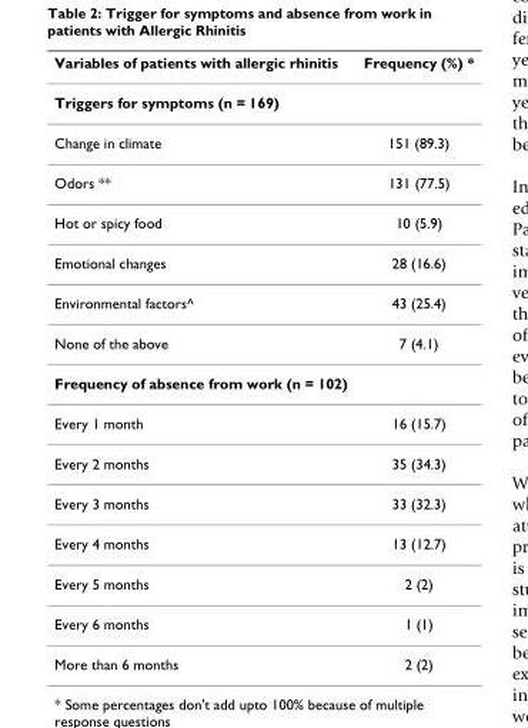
<table><thead><tr><td>Variables of patients with allergic rhinitis</td><td>Frequency (%) *</td></tr></thead><tbody><tr><td colspan="2">Triggers for symptoms (n = 169)</td></tr><tr><td>Change in climate</td><td>151 (89.3)</td></tr><tr><td>Odors **</td><td>131 (77.5)</td></tr><tr><td>Hot or spicy food</td><td>10 (5.9)</td></tr><tr><td>Emotional changes</td><td>28 (16.6)</td></tr><tr><td>Environmental factors^</td><td>43 (25.4)</td></tr><tr><td>None of the above</td><td>7 (4.1)</td></tr><tr><td colspan="2">Frequency of absence from work (n = 102)</td></tr><tr><td>Every 1 month</td><td>16 (15.7)</td></tr><tr><td>Every 2 months</td><td>35 (34.3)</td></tr><tr><td>Every 3 months</td><td>33 (32.3)</td></tr><tr><td>Every 4 months</td><td>13 (12.7)</td></tr><tr><td>Every 5 months</td><td>2 (2)</td></tr><tr><td>Every 6 months</td><td>1 (1)</td></tr><tr><td>More than 6 months</td><td>2 (2)</td></tr></tbody></table>